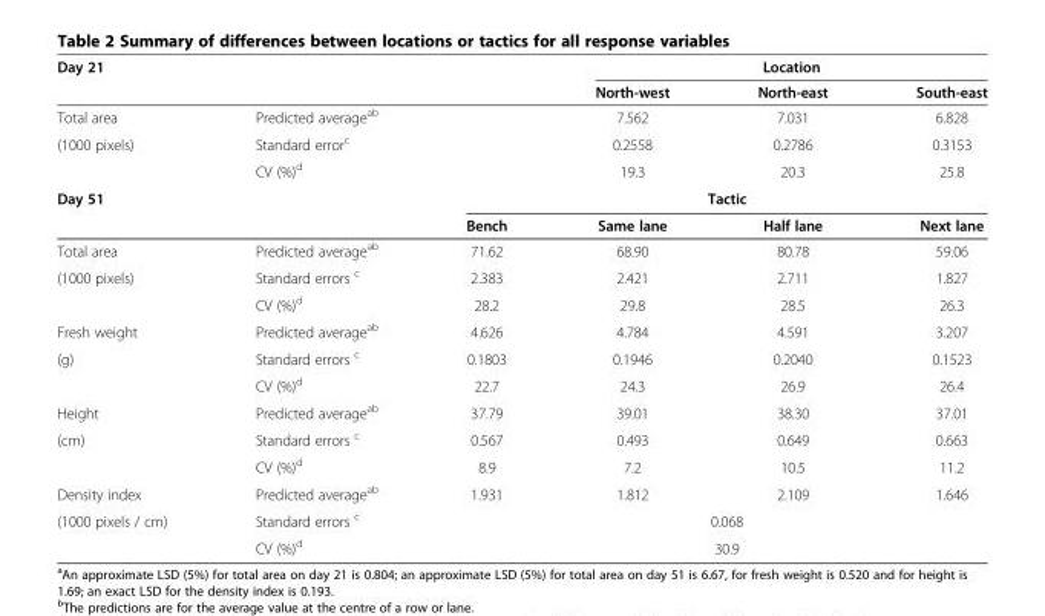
<table><thead><tr><td rowspan="2">Day 21</td><td rowspan="2"></td><td rowspan="2"></td><td colspan="3">Location</td></tr><tr><td>North-west</td><td>North-east</td><td>South-east</td></tr></thead><tbody><tr><td>Total area</td><td>Predicted average<sup>ab</sup></td><td></td><td>7.562</td><td>7.031</td><td>6.828</td></tr><tr><td rowspan="2">(1000 pixels)</td><td>Standard error<sup>c</sup></td><td></td><td>0.2558</td><td>0.2786</td><td>0.3153</td></tr><tr><td>CV (%)<sup>d</sup></td><td></td><td>19.3</td><td>20.3</td><td>25.8</td></tr><tr><td rowspan="2">Day 51</td><td></td><td colspan="4">Tactic</td></tr><tr><td></td><td>Bench</td><td>Same lane</td><td>Half lane</td><td>Next lane</td></tr><tr><td>Total area</td><td>Predicted average<sup>ab</sup></td><td>71.62</td><td>68.90</td><td>80.78</td><td>59.06</td></tr><tr><td rowspan="2">(1000 pixels)</td><td>Standard errors <sup>c</sup></td><td>2.383</td><td>2.421</td><td>2.711</td><td>1.827</td></tr><tr><td>CV (%)<sup>d</sup></td><td>28.2</td><td>29.8</td><td>28.5</td><td>26.3</td></tr><tr><td>Fresh weight</td><td>Predicted average<sup>ab</sup></td><td>4.626</td><td>4.784</td><td>4.591</td><td>3.207</td></tr><tr><td rowspan="2">(g)</td><td>Standard errors <sup>c</sup></td><td>0.1803</td><td>0.1946</td><td>0.2040</td><td>0.1523</td></tr><tr><td>CV (%)<sup>d</sup></td><td>22.7</td><td>24.3</td><td>26.9</td><td>26.4</td></tr><tr><td>Height</td><td>Predicted average<sup>ab</sup></td><td>37.79</td><td>39.01</td><td>38.30</td><td>37.01</td></tr><tr><td rowspan="2">(cm)</td><td>Standard errors <sup>c</sup></td><td>0.567</td><td>0.493</td><td>0.649</td><td>0.663</td></tr><tr><td>CV (%)<sup>d</sup></td><td>8.9</td><td>7.2</td><td>10.5</td><td>11.2</td></tr><tr><td>Density index</td><td>Predicted average<sup>ab</sup></td><td>1.931</td><td>1.812</td><td>2.109</td><td>1.646</td></tr><tr><td rowspan="2">(1000 pixels / cm)</td><td>Standard errors <sup>c</sup></td><td colspan="4">0.068</td></tr><tr><td>CV (%)<sup>d</sup></td><td colspan="4">30.9</td></tr></tbody></table>